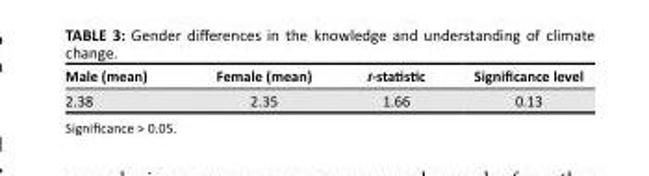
<table><thead><tr><td>Male (mean)</td><td>Female (mean)</td><td>t-statistic</td><td>Significance level</td></tr></thead><tbody><tr><td>2.38</td><td>2.35</td><td>1.66</td><td>0.13</td></tr></tbody></table>